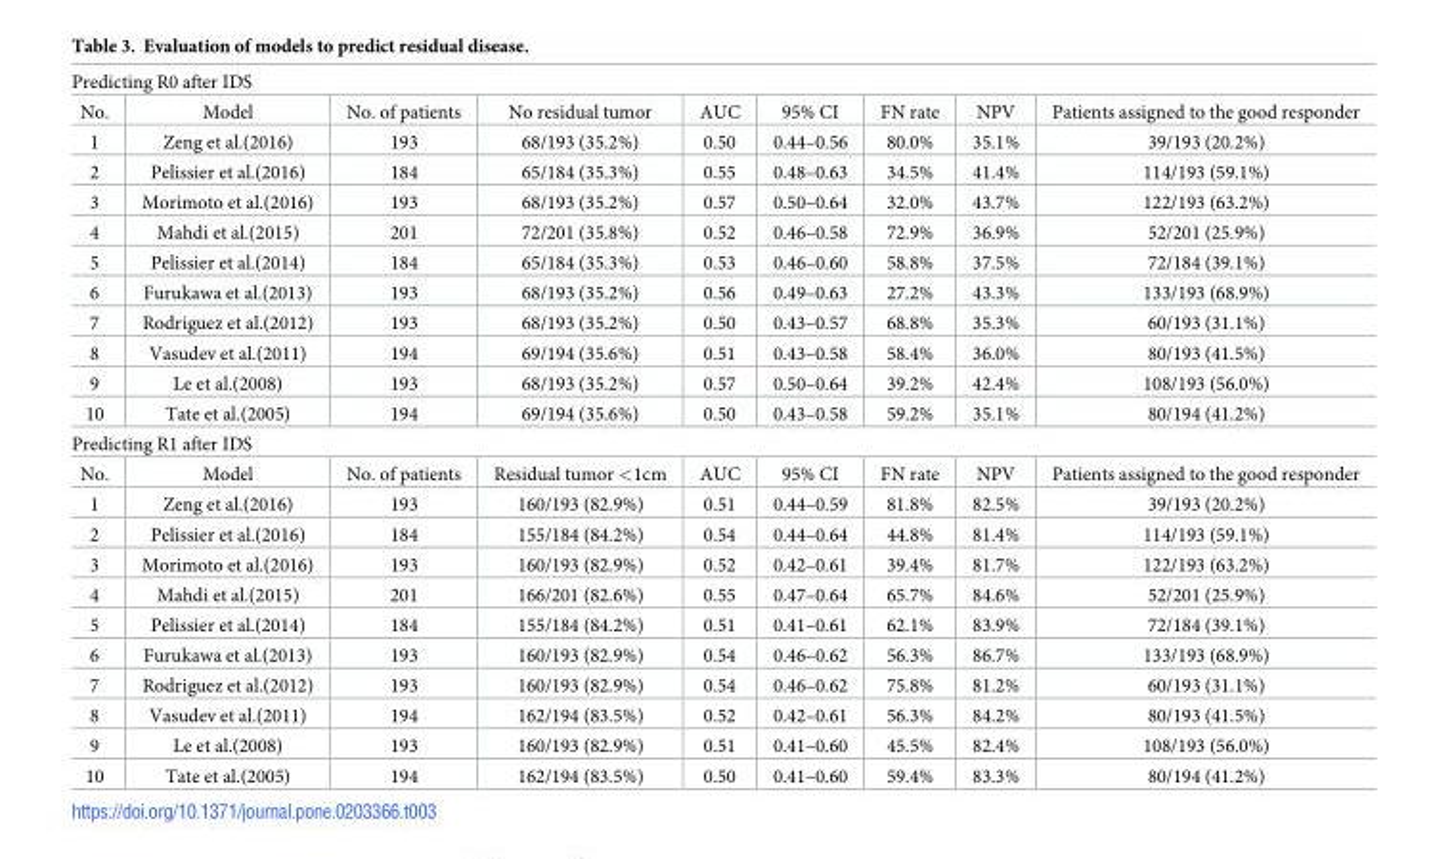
<table><tbody><tr><td colspan="9">Predicting R0 after IDS</td></tr><tr><td>No.</td><td>Model</td><td>No. of patients</td><td>No residual tumor</td><td>AUC</td><td>95% CI</td><td>FN rate</td><td>NPV</td><td>Patients assigned to the good responder</td></tr><tr><td>1</td><td>Zeng et al.(2016)</td><td>193</td><td>68/193 (35.2%)</td><td>0.50</td><td>0.44–0.56</td><td>80.0%</td><td>35.1%</td><td>39/193 (20.2%)</td></tr><tr><td>2</td><td>Pelissier et al.(2016)</td><td>184</td><td>65/184 (35.3%)</td><td>0.55</td><td>0.48–0.63</td><td>34.5%</td><td>41.4%</td><td>114/193 (59.1%)</td></tr><tr><td>3</td><td>Morimoto et al.(2016)</td><td>193</td><td>68/193 (35.2%)</td><td>0.57</td><td>0.50–0.64</td><td>32.0%</td><td>43.7%</td><td>122/193 (63.2%)</td></tr><tr><td>4</td><td>Mahdi et al.(2015)</td><td>201</td><td>72/201 (35.8%)</td><td>0.52</td><td>0.46–0.58</td><td>72.9%</td><td>36.9%</td><td>52/201 (25.9%)</td></tr><tr><td>5</td><td>Pelissier et al.(2014)</td><td>184</td><td>65/184 (35.3%)</td><td>0.53</td><td>0.46–0.60</td><td>58.8%</td><td>37.5%</td><td>72/184 (39.1%)</td></tr><tr><td>6</td><td>Furukawa et al.(2013)</td><td>193</td><td>68/193 (35.2%)</td><td>0.56</td><td>0.49–0.63</td><td>27.2%</td><td>43.3%</td><td>133/193 (68.9%)</td></tr><tr><td>7</td><td>Rodriguez et al.(2012)</td><td>193</td><td>68/193 (35.2%)</td><td>0.50</td><td>0.43–0.57</td><td>68.8%</td><td>35.3%</td><td>60/193 (31.1%)</td></tr><tr><td>8</td><td>Vasudev et al.(2011)</td><td>194</td><td>69/194 (35.6%)</td><td>0.51</td><td>0.43–0.58</td><td>58.4%</td><td>36.0%</td><td>80/193 (41.5%)</td></tr><tr><td>9</td><td>Le et al.(2008)</td><td>193</td><td>68/193 (35.2%)</td><td>0.57</td><td>0.50–0.64</td><td>39.2%</td><td>42.4%</td><td>108/193 (56.0%)</td></tr><tr><td>10</td><td>Tate et al.(2005)</td><td>194</td><td>69/194 (35.6%)</td><td>0.50</td><td>0.43–0.58</td><td>59.2%</td><td>35.1%</td><td>80/194 (41.2%)</td></tr><tr><td colspan="9">Predicting R1 after IDS</td></tr><tr><td>No.</td><td>Model</td><td>No. of patients</td><td>Residual tumor &lt;1cm</td><td>AUC</td><td>95% CI</td><td>FN rate</td><td>NPV</td><td>Patients assigned to the good responder</td></tr><tr><td>1</td><td>Zeng et al.(2016)</td><td>193</td><td>160/193 (82.9%)</td><td>0.51</td><td>0.44–0.59</td><td>81.8%</td><td>82.5%</td><td>39/193 (20.2%)</td></tr><tr><td>2</td><td>Pelissier et al.(2016)</td><td>184</td><td>155/184 (84.2%)</td><td>0.54</td><td>0.44–0.64</td><td>44.8%</td><td>81.4%</td><td>114/193 (59.1%)</td></tr><tr><td>3</td><td>Morimoto et al.(2016)</td><td>193</td><td>160/193 (82.9%)</td><td>0.52</td><td>0.42–0.61</td><td>39.4%</td><td>81.7%</td><td>122/193 (63.2%)</td></tr><tr><td>4</td><td>Mahdi et al.(2015)</td><td>201</td><td>166/201 (82.6%)</td><td>0.55</td><td>0.47–0.64</td><td>65.7%</td><td>84.6%</td><td>52/201 (25.9%)</td></tr><tr><td>5</td><td>Pelissier et al.(2014)</td><td>184</td><td>155/184 (84.2%)</td><td>0.51</td><td>0.41–0.61</td><td>62.1%</td><td>83.9%</td><td>72/184 (39.1%)</td></tr><tr><td>6</td><td>Furukawa et al.(2013)</td><td>193</td><td>160/193 (82.9%)</td><td>0.54</td><td>0.46–0.62</td><td>56.3%</td><td>86.7%</td><td>133/193 (68.9%)</td></tr><tr><td>7</td><td>Rodriguez et al.(2012)</td><td>193</td><td>160/193 (82.9%)</td><td>0.54</td><td>0.46–0.62</td><td>75.8%</td><td>81.2%</td><td>60/193 (31.1%)</td></tr><tr><td>8</td><td>Vasudev et al.(2011)</td><td>194</td><td>162/194 (83.5%)</td><td>0.52</td><td>0.42–0.61</td><td>56.3%</td><td>84.2%</td><td>80/193 (41.5%)</td></tr><tr><td>9</td><td>Le et al.(2008)</td><td>193</td><td>160/193 (82.9%)</td><td>0.51</td><td>0.41–0.60</td><td>45.5%</td><td>82.4%</td><td>108/193 (56.0%)</td></tr><tr><td>10</td><td>Tate et al.(2005)</td><td>194</td><td>162/194 (83.5%)</td><td>0.50</td><td>0.41–0.60</td><td>59.4%</td><td>83.3%</td><td>80/194 (41.2%)</td></tr></tbody></table>